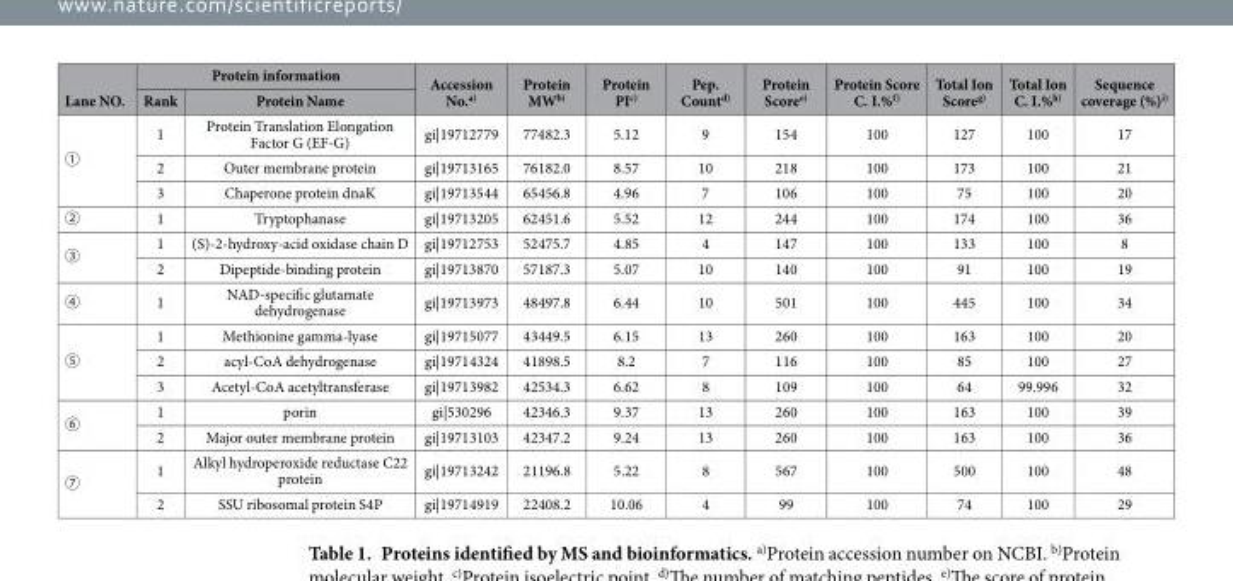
<table><thead><tr><td rowspan="2">Lane NO.</td><td colspan="2">Protein information</td><td rowspan="2">Accession No.a)</td><td rowspan="2">Protein MWb)</td><td rowspan="2">Protein PIc)</td><td rowspan="2">Pep. Countd)</td><td rowspan="2">Protein Scoree)</td><td rowspan="2">Protein Score C. I.%f)</td><td rowspan="2">Total Ion Scoreg)</td><td rowspan="2">Total Ion C. I.%h)</td><td rowspan="2">Sequence coverage (%)i)</td></tr><tr><td>Rank</td><td>Protein Name</td></tr></thead><tbody><tr><td rowspan="3">①</td><td>1</td><td>Protein Translation Elongation Factor G (EF-G)</td><td>gi|19712779</td><td>77482.3</td><td>5.12</td><td>9</td><td>154</td><td>100</td><td>127</td><td>100</td><td>17</td></tr><tr><td>2</td><td>Outer membrane protein</td><td>gi|19713165</td><td>76182.0</td><td>8.57</td><td>10</td><td>218</td><td>100</td><td>173</td><td>100</td><td>21</td></tr><tr><td>3</td><td>Chaperone protein dnaK</td><td>gi|19713544</td><td>65456.8</td><td>4.96</td><td>7</td><td>106</td><td>100</td><td>75</td><td>100</td><td>20</td></tr><tr><td>②</td><td>1</td><td>Tryptophanase</td><td>gi|19713205</td><td>62451.6</td><td>5.52</td><td>12</td><td>244</td><td>100</td><td>174</td><td>100</td><td>36</td></tr><tr><td rowspan="2">③</td><td>1</td><td>(S)-2-hydroxy-acid oxidase chain D</td><td>gi|19712753</td><td>52475.7</td><td>4.85</td><td>4</td><td>147</td><td>100</td><td>133</td><td>100</td><td>8</td></tr><tr><td>2</td><td>Dipeptide-binding protein</td><td>gi|19713870</td><td>57187.3</td><td>5.07</td><td>10</td><td>140</td><td>100</td><td>91</td><td>100</td><td>19</td></tr><tr><td>④</td><td>1</td><td>NAD-specific glutamate dehydrogenase</td><td>gi|19713973</td><td>48497.8</td><td>6.44</td><td>10</td><td>501</td><td>100</td><td>445</td><td>100</td><td>34</td></tr><tr><td rowspan="3">⑤</td><td>1</td><td>Methionine gamma-lyase</td><td>gi|19715077</td><td>43449.5</td><td>6.15</td><td>13</td><td>260</td><td>100</td><td>163</td><td>100</td><td>20</td></tr><tr><td>2</td><td>acyl-CoA dehydrogenase</td><td>gi|19714324</td><td>41898.5</td><td>8.2</td><td>7</td><td>116</td><td>100</td><td>85</td><td>100</td><td>27</td></tr><tr><td>3</td><td>Acetyl-CoA acetyltransferase</td><td>gi|19713982</td><td>42534.3</td><td>6.62</td><td>8</td><td>109</td><td>100</td><td>64</td><td>99.996</td><td>32</td></tr><tr><td rowspan="2">⑥</td><td>1</td><td>porin</td><td>gi|530296</td><td>42346.3</td><td>9.37</td><td>13</td><td>260</td><td>100</td><td>163</td><td>100</td><td>39</td></tr><tr><td>2</td><td>Major outer membrane protein</td><td>gi|19713103</td><td>42347.2</td><td>9.24</td><td>13</td><td>260</td><td>100</td><td>163</td><td>100</td><td>36</td></tr><tr><td rowspan="2">⑦</td><td>1</td><td>Alkyl hydroperoxide reductase C22 protein</td><td>gi|19713242</td><td>21196.8</td><td>5.22</td><td>8</td><td>567</td><td>100</td><td>500</td><td>100</td><td>48</td></tr><tr><td>2</td><td>SSU ribosomal protein S4P</td><td>gi|19714919</td><td>22408.2</td><td>10.06</td><td>4</td><td>99</td><td>100</td><td>74</td><td>100</td><td>29</td></tr></tbody></table>